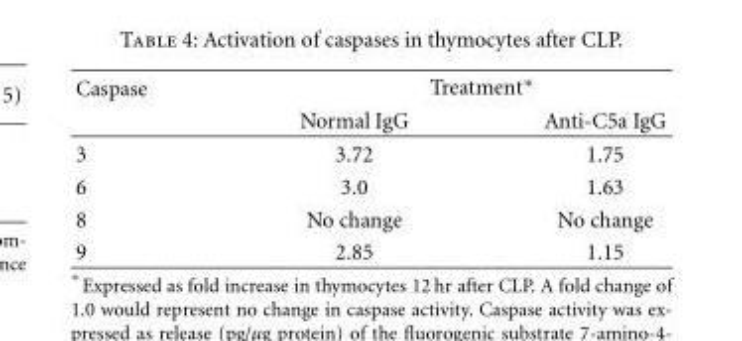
<table><thead><tr><td rowspan="2">Caspase</td><td colspan="2">Treatment∗</td></tr><tr><td>Normal IgG</td><td>Anti-C5a IgG</td></tr></thead><tbody><tr><td>3</td><td>3.72</td><td>1.75</td></tr><tr><td>6</td><td>3.0</td><td>1.63</td></tr><tr><td>8</td><td>No change</td><td>No change</td></tr><tr><td>9</td><td>2.85</td><td>1.15</td></tr></tbody></table>